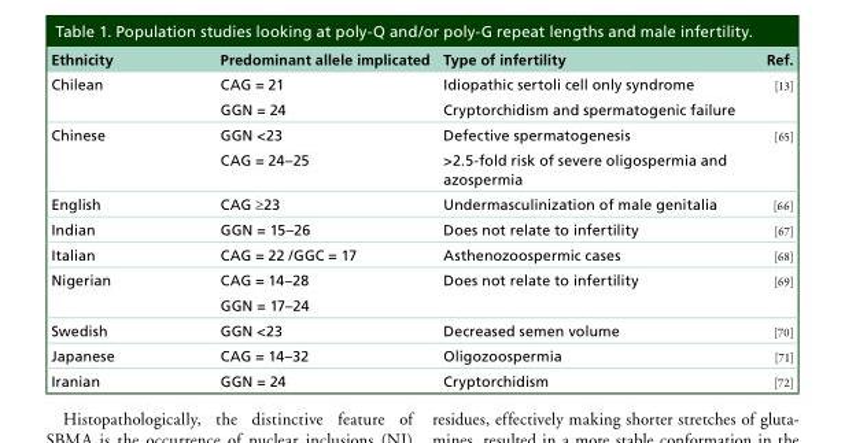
<table><thead><tr><td>Ethnicity</td><td>Predominant allele implicated</td><td>Type of infertility</td><td>Ref.</td></tr></thead><tbody><tr><td rowspan="2">Chilean</td><td>CAG = 21</td><td>Idiopathic sertoli cell only syndrome</td><td>[13]</td></tr><tr><td>GGN = 24</td><td>Cryptorchidism and spermatogenic failure</td><td></td></tr><tr><td rowspan="2">Chinese</td><td>GGN &lt;23</td><td>Defective spermatogenesis</td><td>[65]</td></tr><tr><td>CAG = 24–25</td><td>&gt;2.5-fold risk of severe oligospermia and azospermia</td><td></td></tr><tr><td>English</td><td>CAG ≥23</td><td>Undermasculinization of male genitalia</td><td>[66]</td></tr><tr><td>Indian</td><td>GGN = 15–26</td><td>Does not relate to infertility</td><td>[67]</td></tr><tr><td>Italian</td><td>CAG = 22 /GGC = 17</td><td>Asthenozoospermic cases</td><td>[68]</td></tr><tr><td rowspan="2">Nigerian</td><td>CAG = 14–28</td><td>Does not relate to infertility</td><td>[69]</td></tr><tr><td>GGN = 17–24</td><td></td><td></td></tr><tr><td>Swedish</td><td>GGN &lt;23</td><td>Decreased semen volume</td><td>[70]</td></tr><tr><td>Japanese</td><td>CAG = 14–32</td><td>Oligozoospermia</td><td>[71]</td></tr><tr><td>Iranian</td><td>GGN = 24</td><td>Cryptorchidism</td><td>[72]</td></tr></tbody></table>